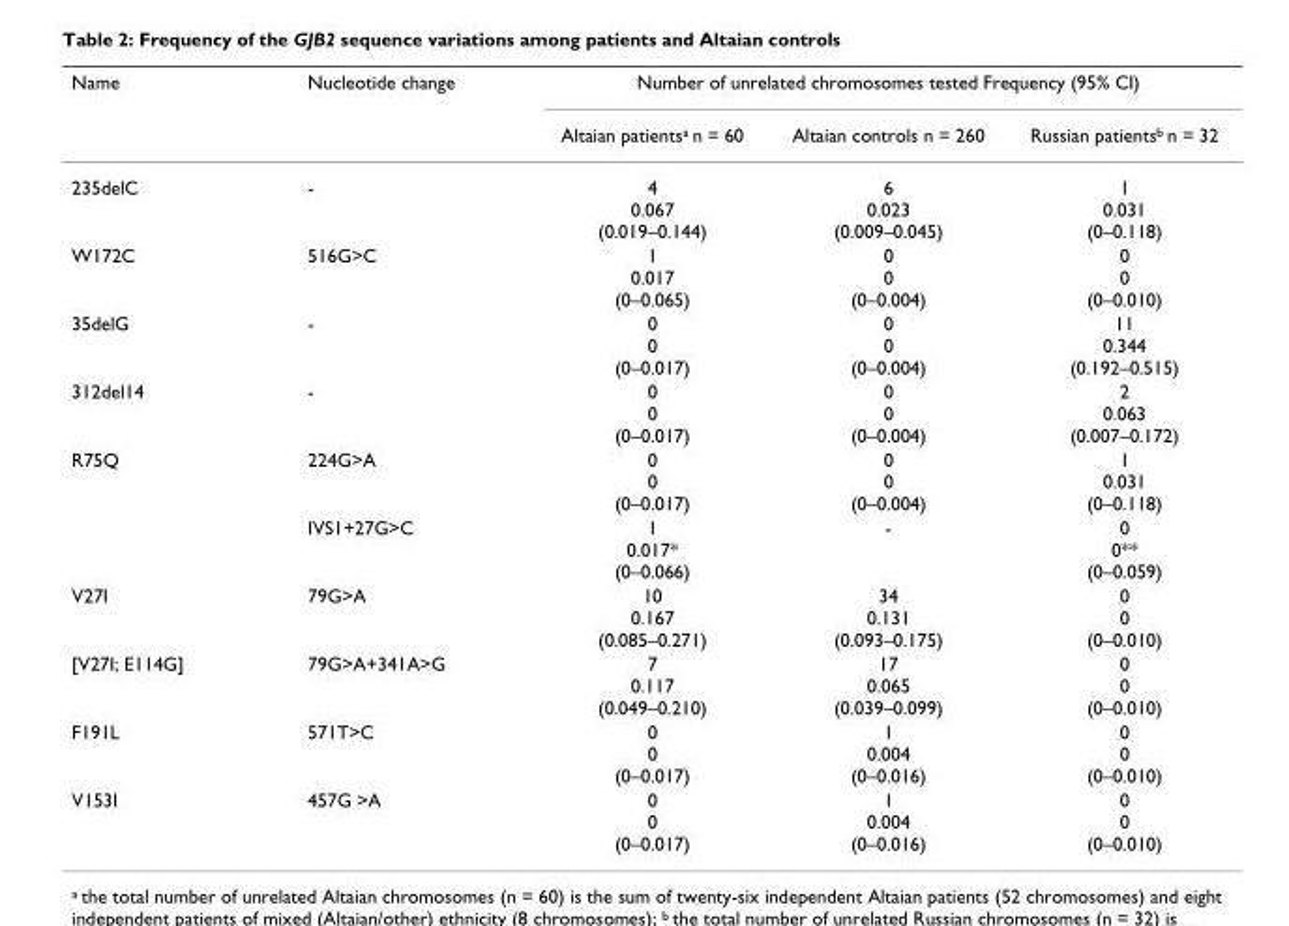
<table><thead><tr><td rowspan="2">Name</td><td rowspan="2">Nucleotide change</td><td colspan="3">Number of unrelated chromosomes tested Frequency (95% CI)</td></tr><tr><td>Altaian patientsa n = 60</td><td>Altaian controls n = 260</td><td>Russian patientsb n = 32</td></tr></thead><tbody><tr><td>235delC</td><td>-</td><td>4 0.067 (0.019–0.144)</td><td>6 0.023 (0.009–0.045)</td><td>1 0.031 (0–0.118)</td></tr><tr><td>W172C</td><td>516G&gt;C</td><td>1 0.017 (0–0.065)</td><td>0 0 (0–0.004)</td><td>0 0 (0–0.010)</td></tr><tr><td>35delG</td><td>-</td><td>0 0 (0–0.017)</td><td>0 0 (0–0.004)</td><td>11 0.344 (0.192–0.515)</td></tr><tr><td>312del14</td><td>-</td><td>0 0 (0–0.017)</td><td>0 0 (0–0.004)</td><td>2 0.063 (0.007–0.172)</td></tr><tr><td rowspan="2">R75Q</td><td>224G&gt;A</td><td>0 0 (0–0.017)</td><td>0 0 (0–0.004)</td><td>1 0.031 (0–0.118)</td></tr><tr><td>IVS1+27G&gt;C</td><td>1 0.017* (0–0.066)</td><td>-</td><td>0 0** (0–0.059)</td></tr><tr><td>V27I</td><td>79G&gt;A</td><td>10 0.167 (0.085–0.271)</td><td>34 0.131 (0.093–0.175)</td><td>0 0 (0–0.010)</td></tr><tr><td>[V27I; E114G]</td><td>79G&gt;A+341A&gt;G</td><td>7 0.117 (0.049–0.210)</td><td>17 0.065 (0.039–0.099)</td><td>0 0 (0–0.010)</td></tr><tr><td>F191L</td><td>571T&gt;C</td><td>0 0 (0–0.017)</td><td>1 0.004 (0–0.016)</td><td>0 0 (0–0.010)</td></tr><tr><td>V153I</td><td>457G &gt;A</td><td>0 0 (0–0.017)</td><td>1 0.004 (0–0.016)</td><td>0 0 (0–0.010)</td></tr></tbody></table>